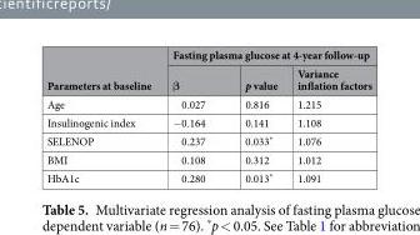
<table><thead><tr><td rowspan="2">Parameters at baseline</td><td colspan="3">Fasting plasma glucose at 4-year follow-up</td></tr><tr><td>β</td><td>p value</td><td>Variance inflation factors</td></tr></thead><tbody><tr><td>Age</td><td>0.027</td><td>0.816</td><td>1.215</td></tr><tr><td>Insulinogenic index</td><td>−0.164</td><td>0.141</td><td>1.108</td></tr><tr><td>SELENOP</td><td>0.237</td><td>0.033*</td><td>1.076</td></tr><tr><td>BMI</td><td>0.108</td><td>0.312</td><td>1.012</td></tr><tr><td>HbA1c</td><td>0.280</td><td>0.013*</td><td>1.091</td></tr></tbody></table>